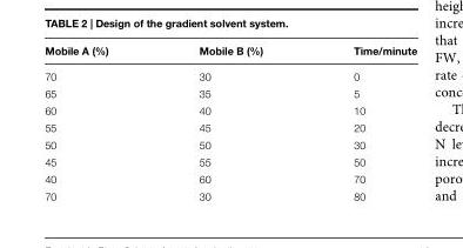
<table><thead><tr><td>Mobile A (%)</td><td>Mobile B (%)</td><td>Time/minute</td></tr></thead><tbody><tr><td>70</td><td>30</td><td>0</td></tr><tr><td>65</td><td>35</td><td>5</td></tr><tr><td>60</td><td>40</td><td>10</td></tr><tr><td>55</td><td>45</td><td>20</td></tr><tr><td>50</td><td>50</td><td>30</td></tr><tr><td>45</td><td>55</td><td>50</td></tr><tr><td>40</td><td>60</td><td>70</td></tr><tr><td>70</td><td>30</td><td>80</td></tr></tbody></table>